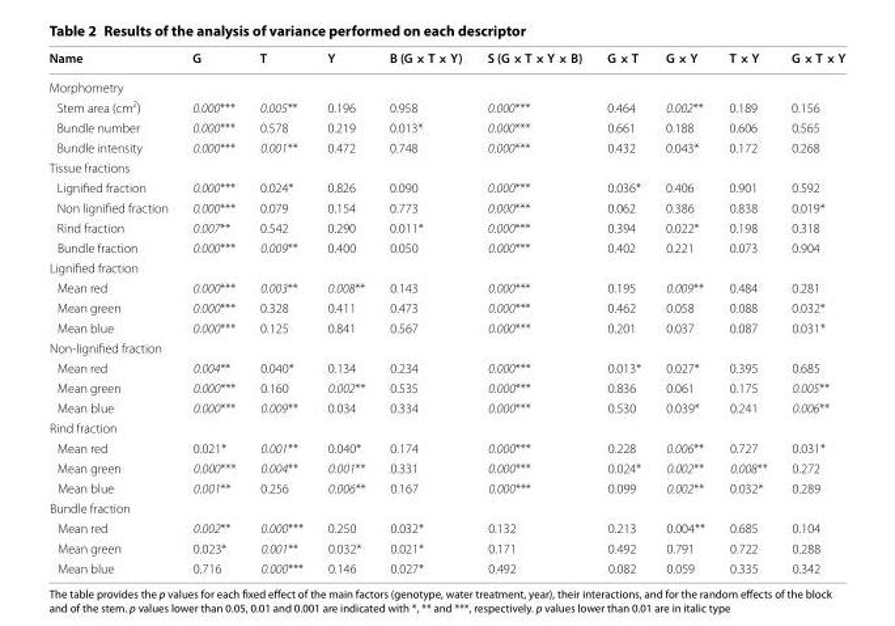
<table><thead><tr><td>Name</td><td>G</td><td>T</td><td>Y</td><td>B (G × T × Y)</td><td>S (G × T × Y × B)</td><td>G × T</td><td>G × Y</td><td>T × Y</td><td>G × T × Y</td></tr></thead><tbody><tr><td colspan="10">Morphometry</td></tr><tr><td>Stem area (cm<sup>2</sup>)</td><td>0.000***</td><td>0.005**</td><td>0.196</td><td>0.958</td><td>0.000***</td><td>0.464</td><td>0.002**</td><td>0.189</td><td>0.156</td></tr><tr><td>Bundle number</td><td>0.000***</td><td>0.578</td><td>0.219</td><td>0.013*</td><td>0.000***</td><td>0.661</td><td>0.188</td><td>0.606</td><td>0.565</td></tr><tr><td>Bundle intensity</td><td>0.000***</td><td>0.001**</td><td>0.472</td><td>0.748</td><td>0.000***</td><td>0.432</td><td>0.043*</td><td>0.172</td><td>0.268</td></tr><tr><td colspan="10">Tissue fractions</td></tr><tr><td>Lignified fraction</td><td>0.000***</td><td>0.024*</td><td>0.826</td><td>0.090</td><td>0.000***</td><td>0.036*</td><td>0.406</td><td>0.901</td><td>0.592</td></tr><tr><td>Non lignified fraction</td><td>0.000***</td><td>0.079</td><td>0.154</td><td>0.773</td><td>0.000***</td><td>0.062</td><td>0.386</td><td>0.838</td><td>0.019*</td></tr><tr><td>Rind fraction</td><td>0.007**</td><td>0.542</td><td>0.290</td><td>0.011*</td><td>0.000***</td><td>0.394</td><td>0.022*</td><td>0.198</td><td>0.318</td></tr><tr><td>Bundle fraction</td><td>0.000***</td><td>0.009**</td><td>0.400</td><td>0.050</td><td>0.000***</td><td>0.402</td><td>0.221</td><td>0.073</td><td>0.904</td></tr><tr><td colspan="10">Lignified fraction</td></tr><tr><td>Mean red</td><td>0.000***</td><td>0.003**</td><td>0.008**</td><td>0.143</td><td>0.000***</td><td>0.195</td><td>0.009**</td><td>0.484</td><td>0.281</td></tr><tr><td>Mean green</td><td>0.000***</td><td>0.328</td><td>0.411</td><td>0.473</td><td>0.000***</td><td>0.462</td><td>0.058</td><td>0.088</td><td>0.032*</td></tr><tr><td>Mean blue</td><td>0.000***</td><td>0.125</td><td>0.841</td><td>0.567</td><td>0.000***</td><td>0.201</td><td>0.037</td><td>0.087</td><td>0.031*</td></tr><tr><td colspan="10">Non‑lignified fraction</td></tr><tr><td>Mean red</td><td>0.004**</td><td>0.040*</td><td>0.134</td><td>0.234</td><td>0.000***</td><td>0.013*</td><td>0.027*</td><td>0.395</td><td>0.685</td></tr><tr><td>Mean green</td><td>0.000***</td><td>0.160</td><td>0.002**</td><td>0.535</td><td>0.000***</td><td>0.836</td><td>0.061</td><td>0.175</td><td>0.005**</td></tr><tr><td>Mean blue</td><td>0.000***</td><td>0.009**</td><td>0.034</td><td>0.334</td><td>0.000***</td><td>0.530</td><td>0.039*</td><td>0.241</td><td>0.006**</td></tr><tr><td colspan="10">Rind fraction</td></tr><tr><td>Mean red</td><td>0.021*</td><td>0.001**</td><td>0.040*</td><td>0.174</td><td>0.000***</td><td>0.228</td><td>0.006**</td><td>0.727</td><td>0.031*</td></tr><tr><td>Mean green</td><td>0.000***</td><td>0.004**</td><td>0.001**</td><td>0.331</td><td>0.000***</td><td>0.024*</td><td>0.002**</td><td>0.008**</td><td>0.272</td></tr><tr><td>Mean blue</td><td>0.001**</td><td>0.256</td><td>0.006**</td><td>0.167</td><td>0.000***</td><td>0.099</td><td>0.002**</td><td>0.032*</td><td>0.289</td></tr><tr><td colspan="10">Bundle fraction</td></tr><tr><td>Mean red</td><td>0.002**</td><td>0.000***</td><td>0.250</td><td>0.032*</td><td>0.132</td><td>0.213</td><td>0.004**</td><td>0.685</td><td>0.104</td></tr><tr><td>Mean green</td><td>0.023*</td><td>0.001**</td><td>0.032*</td><td>0.021*</td><td>0.171</td><td>0.492</td><td>0.791</td><td>0.722</td><td>0.288</td></tr><tr><td>Mean blue</td><td>0.716</td><td>0.000***</td><td>0.146</td><td>0.027*</td><td>0.492</td><td>0.082</td><td>0.059</td><td>0.335</td><td>0.342</td></tr></tbody></table>